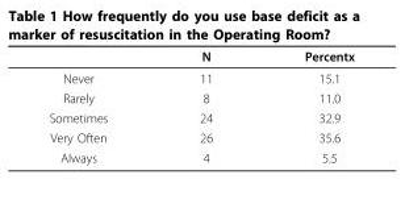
<table><thead><tr><td></td><td>N</td><td>Percentx</td></tr></thead><tbody><tr><td>Never</td><td>11</td><td>15.1</td></tr><tr><td>Rarely</td><td>8</td><td>11.0</td></tr><tr><td>Sometimes</td><td>24</td><td>32.9</td></tr><tr><td>Very Often</td><td>26</td><td>35.6</td></tr><tr><td>Always</td><td>4</td><td>5.5</td></tr></tbody></table>